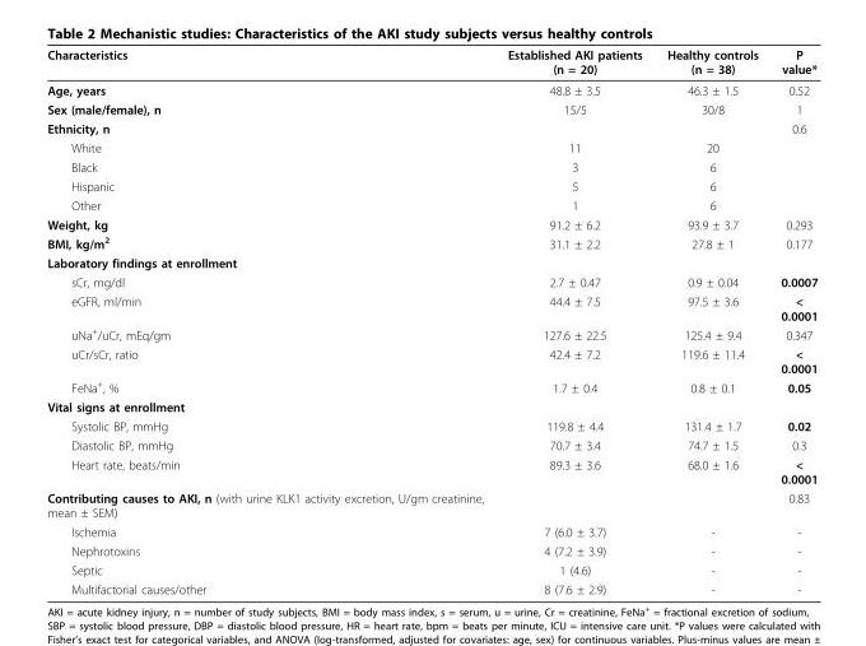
<table><thead><tr><td>Characteristics</td><td>Established AKI patients (n = 20)</td><td>Healthy controls (n = 38)</td><td>P value*</td></tr></thead><tbody><tr><td>Age, years</td><td>48.8 ± 3.5</td><td>46.3 ± 1.5</td><td>0.52</td></tr><tr><td>Sex (male/female), n</td><td>15/5</td><td>30/8</td><td>1</td></tr><tr><td>Ethnicity, n</td><td></td><td></td><td>0.6</td></tr><tr><td>White</td><td>11</td><td>20</td><td></td></tr><tr><td>Black</td><td>3</td><td>6</td><td></td></tr><tr><td>Hispanic</td><td>5</td><td>6</td><td></td></tr><tr><td>Other</td><td>1</td><td>6</td><td></td></tr><tr><td>Weight, kg</td><td>91.2 ± 6.2</td><td>93.9 ± 3.7</td><td>0.293</td></tr><tr><td>BMI, kg/m<sup>2</sup></td><td>31.1 ± 2.2</td><td>27.8 ± 1</td><td>0.177</td></tr><tr><td colspan="4">Laboratory findings at enrollment</td></tr><tr><td>sCr, mg/dl</td><td>2.7 ± 0.47</td><td>0.9 ± 0.04</td><td>0.0007</td></tr><tr><td>eGFR, ml/min</td><td>44.4 ± 7.5</td><td>97.5 ± 3.6</td><td>&lt; 0.0001</td></tr><tr><td>uNa<sup>+</sup>/uCr, mEq/gm</td><td>127.6 ± 22.5</td><td>125.4 ± 9.4</td><td>0.347</td></tr><tr><td>uCr/sCr, ratio</td><td>42.4 ± 7.2</td><td>119.6 ± 11.4</td><td>&lt; 0.0001</td></tr><tr><td>FeNa<sup>+</sup>, %</td><td>1.7 ± 0.4</td><td>0.8 ± 0.1</td><td>0.05</td></tr><tr><td colspan="4">Vital signs at enrollment</td></tr><tr><td>Systolic BP, mmHg</td><td>119.8 ± 4.4</td><td>131.4 ± 1.7</td><td>0.02</td></tr><tr><td>Diastolic BP, mmHg</td><td>70.7 ± 3.4</td><td>74.7 ± 1.5</td><td>0.3</td></tr><tr><td>Heart rate, beats/min</td><td>89.3 ± 3.6</td><td>68.0 ± 1.6</td><td>&lt; 0.0001</td></tr><tr><td>Contributing causes to AKI, n (with urine KLK1 activity excretion, U/gm creatinine, mean ± SEM)</td><td></td><td></td><td>0.83</td></tr><tr><td>Ischemia</td><td>7 (6.0 ± 3.7)</td><td>-</td><td>-</td></tr><tr><td>Nephrotoxins</td><td>4 (7.2 ± 3.9)</td><td>-</td><td>-</td></tr><tr><td>Septic</td><td>1 (4.6)</td><td>-</td><td>-</td></tr><tr><td>Multifactorial causes/other</td><td>8 (7.6 ± 2.9)</td><td>-</td><td>-</td></tr></tbody></table>